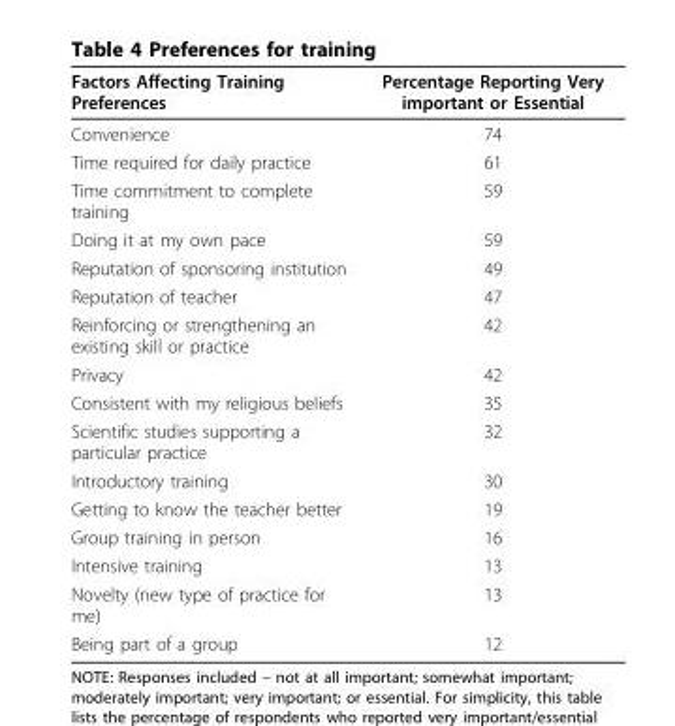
<table><thead><tr><td>Factors Affecting Training Preferences</td><td>Percentage Reporting Very important or Essential</td></tr></thead><tbody><tr><td>Convenience</td><td>74</td></tr><tr><td>Time required for daily practice</td><td>61</td></tr><tr><td>Time commitment to complete training</td><td>59</td></tr><tr><td>Doing it at my own pace</td><td>59</td></tr><tr><td>Reputation of sponsoring institution</td><td>49</td></tr><tr><td>Reputation of teacher</td><td>47</td></tr><tr><td>Reinforcing or strengthening an existing skill or practice</td><td>42</td></tr><tr><td>Privacy</td><td>42</td></tr><tr><td>Consistent with my religious beliefs</td><td>35</td></tr><tr><td>Scientific studies supporting a particular practice</td><td>32</td></tr><tr><td>Introductory training</td><td>30</td></tr><tr><td>Getting to know the teacher better</td><td>19</td></tr><tr><td>Group training in person</td><td>16</td></tr><tr><td>Intensive training</td><td>13</td></tr><tr><td>Novelty (new type of practice for me)</td><td>13</td></tr><tr><td>Being part of a group</td><td>12</td></tr></tbody></table>